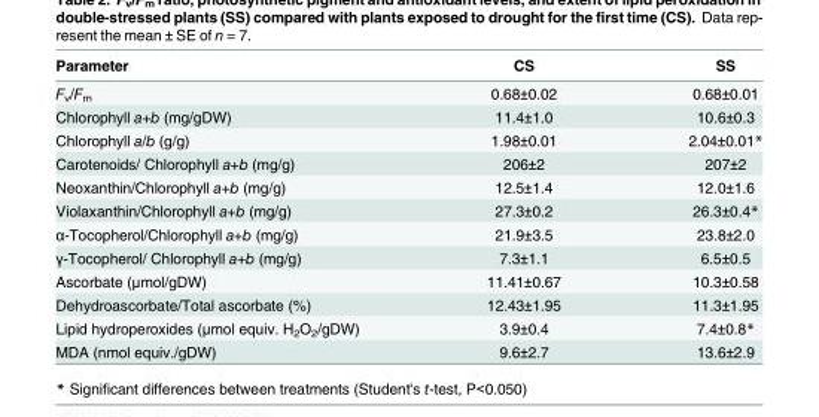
<table><thead><tr><td>Parameter</td><td>CS</td><td>SS</td></tr></thead><tbody><tr><td>F<sub>v</sub>/F<sub>m</sub></td><td>0.68±0.02</td><td>0.68±0.01</td></tr><tr><td>Chlorophyll a+b (mg/gDW)</td><td>11.4±1.0</td><td>10.6±0.3</td></tr><tr><td>Chlorophyll a/b (g/g)</td><td>1.98±0.01</td><td>2.04±0.01*</td></tr><tr><td>Carotenoids/ Chlorophyll a+b (mg/g)</td><td>206±2</td><td>207±2</td></tr><tr><td>Neoxanthin/Chlorophyll a+b (mg/g)</td><td>12.5±1.4</td><td>12.0±1.6</td></tr><tr><td>Violaxanthin/Chlorophyll a+b (mg/g)</td><td>27.3±0.2</td><td>26.3±0.4*</td></tr><tr><td>α-Tocopherol/Chlorophyll a+b (mg/g)</td><td>21.9±3.5</td><td>23.8±2.0</td></tr><tr><td>γ-Tocopherol/ Chlorophyll a+b (mg/g)</td><td>7.3±1.1</td><td>6.5±0.5</td></tr><tr><td>Ascorbate (μmol/gDW)</td><td>11.41±0.67</td><td>10.3±0.58</td></tr><tr><td>Dehydroascorbate/Total ascorbate (%)</td><td>12.43±1.95</td><td>11.3±1.95</td></tr><tr><td>Lipid hydroperoxides (μmol equiv. H<sub>2</sub>O<sub>2</sub>/gDW)</td><td>3.9±0.4</td><td>7.4±0.8*</td></tr><tr><td>MDA (nmol equiv./gDW)</td><td>9.6±2.7</td><td>13.6±2.9</td></tr></tbody></table>